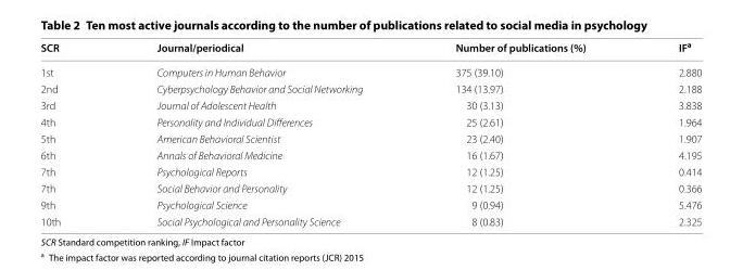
<table><thead><tr><td>SCR</td><td>Journal/periodical</td><td>Number of publications (%)</td><td>IF<sup>a</sup></td></tr></thead><tbody><tr><td>1st</td><td>Computers in Human Behavior</td><td>375 (39.10)</td><td>2.880</td></tr><tr><td>2nd</td><td>Cyberpsychology Behavior and Social Networking</td><td>134 (13.97)</td><td>2.188</td></tr><tr><td>3rd</td><td>Journal of Adolescent Health</td><td>30 (3.13)</td><td>3.838</td></tr><tr><td>4th</td><td>Personality and Individual Differences</td><td>25 (2.61)</td><td>1.964</td></tr><tr><td>5th</td><td>American Behavioral Scientist</td><td>23 (2.40)</td><td>1.907</td></tr><tr><td>6th</td><td>Annals of Behavioral Medicine</td><td>16 (1.67)</td><td>4.195</td></tr><tr><td>7th</td><td>Psychological Reports</td><td>12 (1.25)</td><td>0.414</td></tr><tr><td>7th</td><td>Social Behavior and Personality</td><td>12 (1.25)</td><td>0.366</td></tr><tr><td>9th</td><td>Psychological Science</td><td>9 (0.94)</td><td>5.476</td></tr><tr><td>10th</td><td>Social Psychological and Personality Science</td><td>8 (0.83)</td><td>2.325</td></tr></tbody></table>